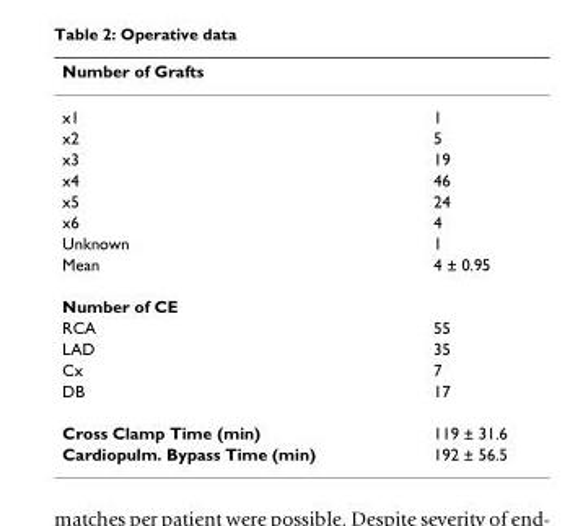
<table><thead><tr><td>Number of Grafts</td><td></td></tr></thead><tbody><tr><td>x1</td><td>1</td></tr><tr><td>x2</td><td>5</td></tr><tr><td>x3</td><td>19</td></tr><tr><td>x4</td><td>46</td></tr><tr><td>x5</td><td>24</td></tr><tr><td>x6</td><td>4</td></tr><tr><td>Unknown</td><td>1</td></tr><tr><td>Mean</td><td>4 ± 0.95</td></tr><tr><td colspan="2">Number of CE</td></tr><tr><td>RCA</td><td>55</td></tr><tr><td>LAD</td><td>35</td></tr><tr><td>Cx</td><td>7</td></tr><tr><td>DB</td><td>17</td></tr><tr><td>Cross Clamp Time (min)</td><td>119 ± 31.6</td></tr><tr><td>Cardiopulm. Bypass Time (min)</td><td>192 ± 56.5</td></tr></tbody></table>